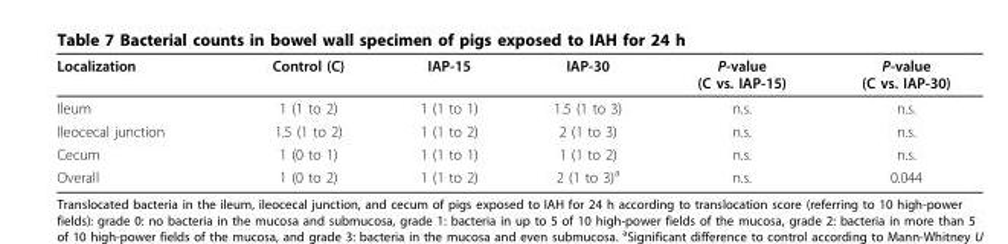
<table><thead><tr><td>Localization</td><td>Control (C)</td><td>IAP-15</td><td>IAP-30</td><td>P-value (C vs. IAP-15)</td><td>P-value (C vs. IAP-30)</td></tr></thead><tbody><tr><td>Ileum</td><td>1 (1 to 2)</td><td>1 (1 to 1)</td><td>1.5 (1 to 3)</td><td>n.s.</td><td>n.s.</td></tr><tr><td>Ileocecal junction</td><td>1.5 (1 to 2)</td><td>1 (1 to 2)</td><td>2 (1 to 3)</td><td>n.s.</td><td>n.s.</td></tr><tr><td>Cecum</td><td>1 (0 to 1)</td><td>1 (1 to 1)</td><td>1 (1 to 2)</td><td>n.s.</td><td>n.s.</td></tr><tr><td>Overall</td><td>1 (0 to 2)</td><td>1 (1 to 2)</td><td>2 (1 to 3)<sup>a</sup></td><td>n.s.</td><td>0.044</td></tr></tbody></table>